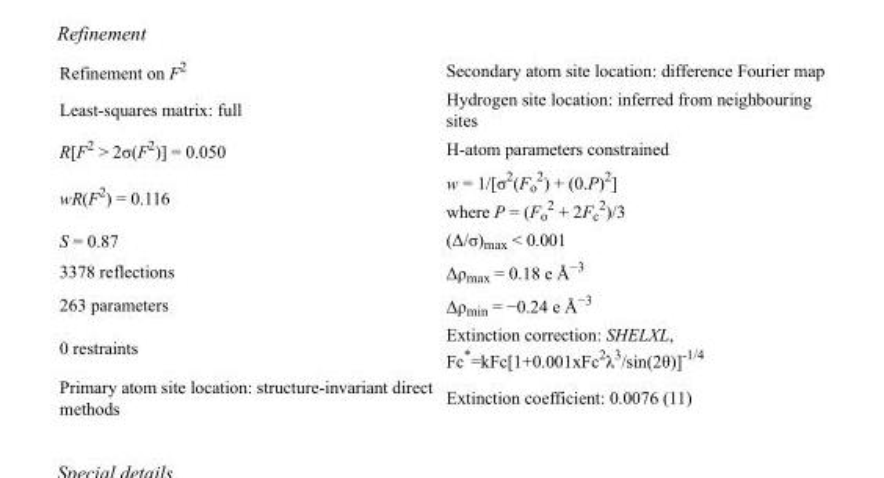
<table><tbody><tr><td>Refinement on F<sup>2</sup></td><td>Secondary atom site location: difference Fourier map</td></tr><tr><td>Least-squares matrix: full</td><td>Hydrogen site location: inferred from neighbouring sites</td></tr><tr><td>R[F<sup>2</sup> &gt; 2σ(F<sup>2</sup>)] = 0.050</td><td>H-atom parameters constrained</td></tr><tr><td>wR(F<sup>2</sup>) = 0.116</td><td>w = 1/[σ<sup>2</sup>(F<sub>o</sub> <sup>2</sup>) + (0.P)<sup>2</sup>] where P = (F<sub>o</sub> <sup>2</sup> + 2F<sub>c</sub> <sup>2</sup>)/3</td></tr><tr><td>S = 0.87</td><td>(Δ/σ)<sub>max</sub> &lt; 0.001</td></tr><tr><td>3378 reflections</td><td>Δρ<sub>max</sub> = 0.18 e Å<sup>−3</sup></td></tr><tr><td>263 parameters</td><td>Δρ<sub>min</sub> = −0.24 e Å<sup>−3</sup></td></tr><tr><td>0 restraints</td><td>Extinction correction: SHELXL, Fc*=kFc[1+0.001xFc<sup>2</sup>λ<sup>3</sup>/sin(2θ)]<sup>-1/4</sup></td></tr><tr><td>Primary atom site location: structure-invariant direct methods</td><td>Extinction coefficient: 0.0076 (11)</td></tr></tbody></table>